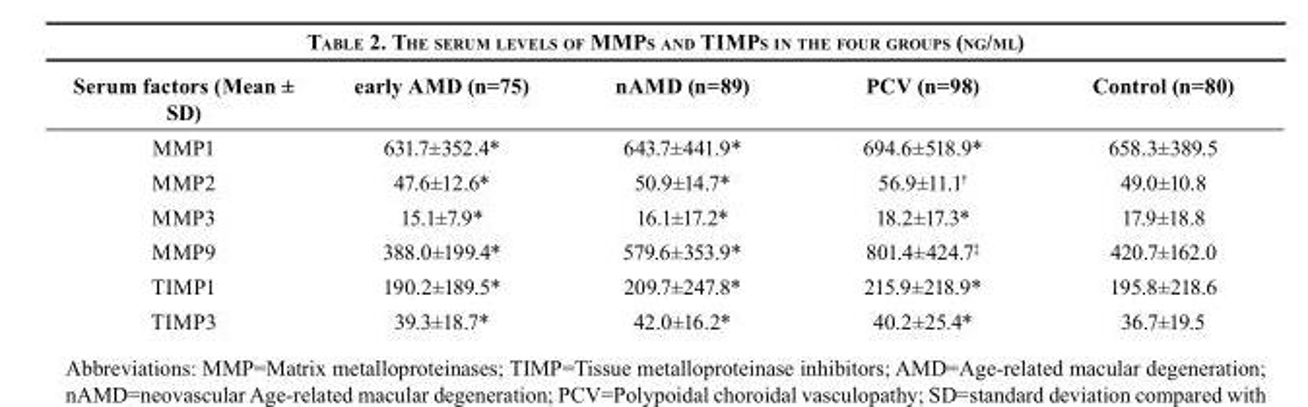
<table><thead><tr><td>Serum factors (Mean ± SD)</td><td>early AMD (n=75)</td><td>nAMD (n=89)</td><td>PCV (n=98)</td><td>Control (n=80)</td></tr></thead><tbody><tr><td>MMP1</td><td>631.7±352.4*</td><td>643.7±441.9*</td><td>694.6±518.9*</td><td>658.3±389.5</td></tr><tr><td>MMP2</td><td>47.6±12.6*</td><td>50.9±14.7*</td><td>56.9±11.1<sup>†</sup></td><td>49.0±10.8</td></tr><tr><td>MMP3</td><td>15.1±7.9*</td><td>16.1±17.2*</td><td>18.2±17.3*</td><td>17.9±18.8</td></tr><tr><td>MMP9</td><td>388.0±199.4*</td><td>579.6±353.9*</td><td>801.4±424.7<sup>‡</sup></td><td>420.7±162.0</td></tr><tr><td>TIMP1</td><td>190.2±189.5*</td><td>209.7±247.8*</td><td>215.9±218.9*</td><td>195.8±218.6</td></tr><tr><td>TIMP3</td><td>39.3±18.7*</td><td>42.0±16.2*</td><td>40.2±25.4*</td><td>36.7±19.5</td></tr></tbody></table>